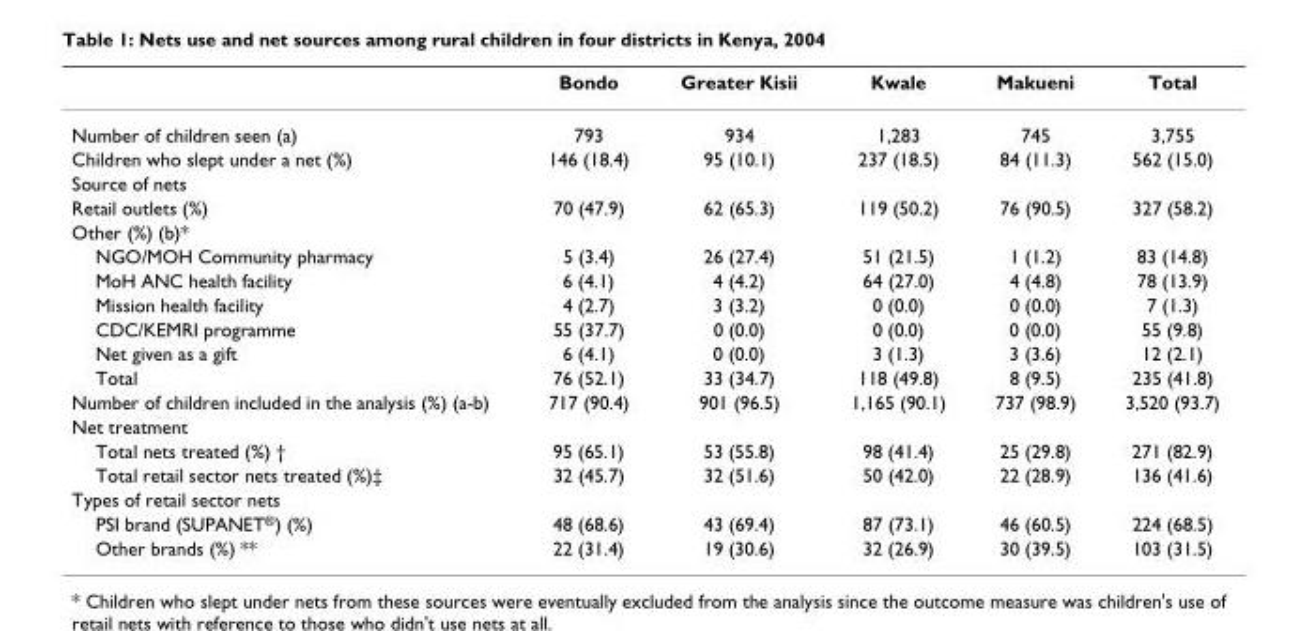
<table><thead><tr><td></td><td>Bondo</td><td>Greater Kisii</td><td>Kwale</td><td>Makueni</td><td>Total</td></tr></thead><tbody><tr><td>Number of children seen (a)</td><td>793</td><td>934</td><td>1,283</td><td>745</td><td>3,755</td></tr><tr><td>Children who slept under a net (%)</td><td>146 (18.4)</td><td>95 (10.1)</td><td>237 (18.5)</td><td>84 (11.3)</td><td>562 (15.0)</td></tr><tr><td colspan="6">Source of nets</td></tr><tr><td>Retail outlets (%)</td><td>70 (47.9)</td><td>62 (65.3)</td><td>119 (50.2)</td><td>76 (90.5)</td><td>327 (58.2)</td></tr><tr><td colspan="6">Other (%) (b)*</td></tr><tr><td>NGO/MOH Community pharmacy</td><td>5 (3.4)</td><td>26 (27.4)</td><td>51 (21.5)</td><td>1 (1.2)</td><td>83 (14.8)</td></tr><tr><td>MoH ANC health facility</td><td>6 (4.1)</td><td>4 (4.2)</td><td>64 (27.0)</td><td>4 (4.8)</td><td>78 (13.9)</td></tr><tr><td>Mission health facility</td><td>4 (2.7)</td><td>3 (3.2)</td><td>0 (0.0)</td><td>0 (0.0)</td><td>7 (1.3)</td></tr><tr><td>CDC/KEMRI programme</td><td>55 (37.7)</td><td>0 (0.0)</td><td>0 (0.0)</td><td>0 (0.0)</td><td>55 (9.8)</td></tr><tr><td>Net given as a gift</td><td>6 (4.1)</td><td>0 (0.0)</td><td>3 (1.3)</td><td>3 (3.6)</td><td>12 (2.1)</td></tr><tr><td>Total</td><td>76 (52.1)</td><td>33 (34.7)</td><td>118 (49.8)</td><td>8 (9.5)</td><td>235 (41.8)</td></tr><tr><td>Number of children included in the analysis (%) (a-b)</td><td>717 (90.4)</td><td>901 (96.5)</td><td>1,165 (90.1)</td><td>737 (98.9)</td><td>3,520 (93.7)</td></tr><tr><td colspan="6">Net treatment</td></tr><tr><td>Total nets treated (%) †</td><td>95 (65.1)</td><td>53 (55.8)</td><td>98 (41.4)</td><td>25 (29.8)</td><td>271 (82.9)</td></tr><tr><td>Total retail sector nets treated (%)‡</td><td>32 (45.7)</td><td>32 (51.6)</td><td>50 (42.0)</td><td>22 (28.9)</td><td>136 (41.6)</td></tr><tr><td colspan="6">Types of retail sector nets</td></tr><tr><td>PSI brand (SUPANET<sup>®</sup>) (%)</td><td>48 (68.6)</td><td>43 (69.4)</td><td>87 (73.1)</td><td>46 (60.5)</td><td>224 (68.5)</td></tr><tr><td>Other brands (%) **</td><td>22 (31.4)</td><td>19 (30.6)</td><td>32 (26.9)</td><td>30 (39.5)</td><td>103 (31.5)</td></tr></tbody></table>